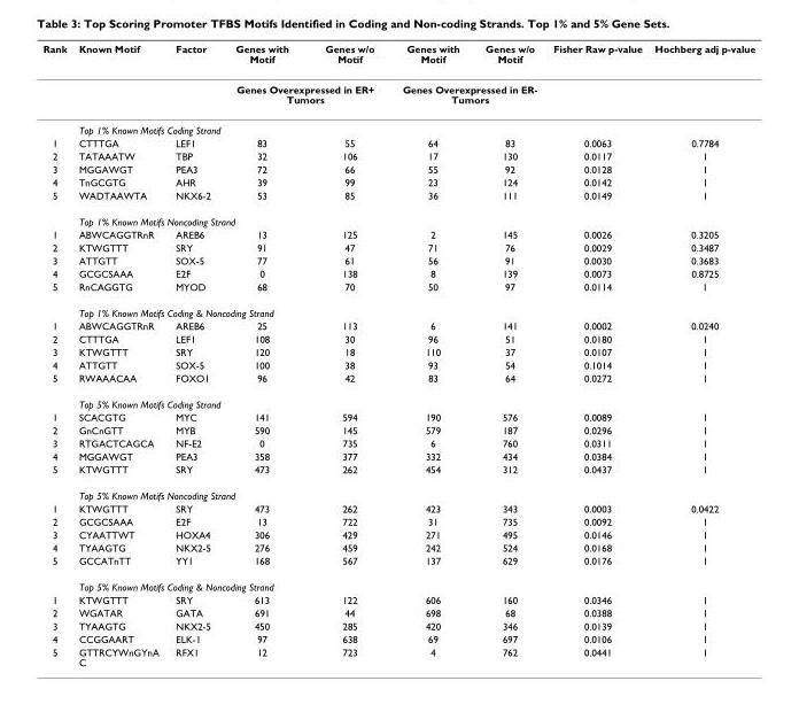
<table><thead><tr><td>Rank</td><td>Known Motif</td><td>Factor</td><td>Genes with Motif</td><td>Genes w/o Motif</td><td>Genes with Motif</td><td>Genes w/o Motif</td><td>Fisher Raw p-value</td><td>Hochberg adj p-value</td></tr></thead><tbody><tr><td></td><td></td><td></td><td colspan="2">Genes Overexpressed in ER+ Tumors</td><td colspan="2">Genes Overexpressed in ER- Tumors</td><td></td><td></td></tr><tr><td></td><td colspan="4">Top 1% Known Motifs Coding Strand</td><td></td><td></td><td></td><td></td></tr><tr><td>1</td><td>CTTTGA</td><td>LEF1</td><td>83</td><td>55</td><td>64</td><td>83</td><td>0.0063</td><td>0.7784</td></tr><tr><td>2</td><td>TATAAATW</td><td>TBP</td><td>32</td><td>106</td><td>17</td><td>130</td><td>0.0117</td><td>1</td></tr><tr><td>3</td><td>MGGAWGT</td><td>PEA3</td><td>72</td><td>66</td><td>55</td><td>92</td><td>0.0128</td><td>1</td></tr><tr><td>4</td><td>TnGCGTG</td><td>AHR</td><td>39</td><td>99</td><td>23</td><td>124</td><td>0.0142</td><td>1</td></tr><tr><td rowspan="2">5</td><td>WADTAAWTA</td><td>NKX6-2</td><td>53</td><td>85</td><td>36</td><td>111</td><td>0.0149</td><td>1</td></tr><tr><td colspan="3">Top 1% Known Motifs Noncoding Strand</td><td></td><td></td><td></td><td></td><td></td></tr><tr><td>1</td><td>ABWCAGGTRnR</td><td>AREB6</td><td>13</td><td>125</td><td>2</td><td>145</td><td>0.0026</td><td>0.3205</td></tr><tr><td>2</td><td>KTWGTTT</td><td>SRY</td><td>91</td><td>47</td><td>71</td><td>76</td><td>0.0029</td><td>0.3487</td></tr><tr><td>3</td><td>ATTGTT</td><td>SOX-5</td><td>77</td><td>61</td><td>56</td><td>91</td><td>0.0030</td><td>0.3683</td></tr><tr><td>4</td><td>GCGCSAAA</td><td>E2F</td><td>0</td><td>138</td><td>8</td><td>139</td><td>0.0073</td><td>0.8725</td></tr><tr><td rowspan="2">5</td><td>RnCAGGTG</td><td>MYOD</td><td>68</td><td>70</td><td>50</td><td>97</td><td>0.0114</td><td>1</td></tr><tr><td colspan="4">Top 1% Known Motifs Coding &amp; Noncoding Strand</td><td></td><td></td><td></td><td></td></tr><tr><td>1</td><td>ABWCAGGTRnR</td><td>AREB6</td><td>25</td><td>113</td><td>6</td><td>141</td><td>0.0002</td><td>0.0240</td></tr><tr><td>2</td><td>CTTTGA</td><td>LEF1</td><td>108</td><td>30</td><td>96</td><td>51</td><td>0.0180</td><td>1</td></tr><tr><td>3</td><td>KTWGTTT</td><td>SRY</td><td>120</td><td>18</td><td>110</td><td>37</td><td>0.0107</td><td>1</td></tr><tr><td>4</td><td>ATTGTT</td><td>SOX-5</td><td>100</td><td>38</td><td>93</td><td>54</td><td>0.1014</td><td>1</td></tr><tr><td rowspan="2">5</td><td>RWAAACAA</td><td>FOXO1</td><td>96</td><td>42</td><td>83</td><td>64</td><td>0.0272</td><td>1</td></tr><tr><td colspan="3">Top 5% Known Motifs Coding Strand</td><td></td><td></td><td></td><td></td><td></td></tr><tr><td>1</td><td>SCACGTG</td><td>MYC</td><td>141</td><td>594</td><td>190</td><td>576</td><td>0.0089</td><td>1</td></tr><tr><td>2</td><td>GnCnGTT</td><td>MYB</td><td>590</td><td>145</td><td>579</td><td>187</td><td>0.0296</td><td>1</td></tr><tr><td>3</td><td>RTGACTCAGCA</td><td>NF-E2</td><td>0</td><td>735</td><td>6</td><td>760</td><td>0.0311</td><td>1</td></tr><tr><td>4</td><td>MGGAWGT</td><td>PEA3</td><td>358</td><td>377</td><td>332</td><td>434</td><td>0.0384</td><td>1</td></tr><tr><td rowspan="2">5</td><td>KTWGTTT</td><td>SRY</td><td>473</td><td>262</td><td>454</td><td>312</td><td>0.0437</td><td>1</td></tr><tr><td colspan="3">Top 5% Known Motifs Noncoding Strand</td><td></td><td></td><td></td><td></td><td></td></tr><tr><td>1</td><td>KTWGTTT</td><td>SRY</td><td>473</td><td>262</td><td>423</td><td>343</td><td>0.0003</td><td>0.0422</td></tr><tr><td>2</td><td>GCGCSAAA</td><td>E2F</td><td>13</td><td>722</td><td>31</td><td>735</td><td>0.0092</td><td>1</td></tr><tr><td>3</td><td>CYAATTWT</td><td>HOXA4</td><td>306</td><td>429</td><td>271</td><td>495</td><td>0.0146</td><td>1</td></tr><tr><td>4</td><td>TYAAGTG</td><td>NKX2-5</td><td>276</td><td>459</td><td>242</td><td>524</td><td>0.0168</td><td>1</td></tr><tr><td rowspan="2">5</td><td>GCCATnTT</td><td>YY1</td><td>168</td><td>567</td><td>137</td><td>629</td><td>0.0176</td><td>1</td></tr><tr><td colspan="4">Top 5% Known Motifs Coding &amp; Noncoding Strand</td><td></td><td></td><td></td><td></td></tr><tr><td>1</td><td>KTWGTTT</td><td>SRY</td><td>613</td><td>122</td><td>606</td><td>160</td><td>0.0346</td><td>1</td></tr><tr><td>2</td><td>WGATAR</td><td>GATA</td><td>691</td><td>44</td><td>698</td><td>68</td><td>0.0388</td><td>1</td></tr><tr><td>3</td><td>TYAAGTG</td><td>NKX2-5</td><td>450</td><td>285</td><td>420</td><td>346</td><td>0.0139</td><td>1</td></tr><tr><td>4</td><td>CCGGAART</td><td>ELK-1</td><td>97</td><td>638</td><td>69</td><td>697</td><td>0.0106</td><td>1</td></tr><tr><td>5</td><td>GTTRCYWnGYnA C</td><td>RFX1</td><td>12</td><td>723</td><td>4</td><td>762</td><td>0.0441</td><td>1</td></tr></tbody></table>